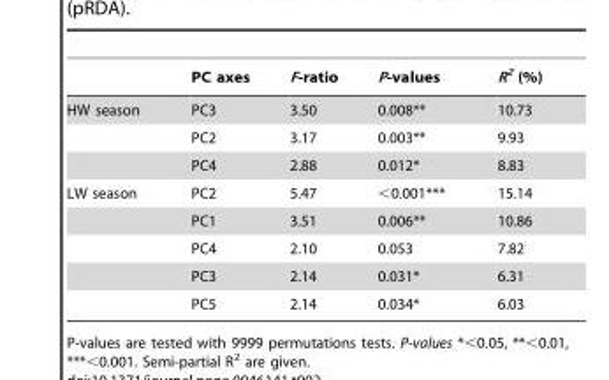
<table><thead><tr><td></td><td>PC axes</td><td>F-ratio</td><td>P-values</td><td>R<sup>2</sup> (%)</td></tr></thead><tbody><tr><td rowspan="3">HW season</td><td>PC3</td><td>3.50</td><td>0.008**</td><td>10.73</td></tr><tr><td>PC2</td><td>3.17</td><td>0.003**</td><td>9.93</td></tr><tr><td>PC4</td><td>2.88</td><td>0.012*</td><td>8.83</td></tr><tr><td rowspan="5">LW season</td><td>PC2</td><td>5.47</td><td>&lt;0.001***</td><td>15.14</td></tr><tr><td>PC1</td><td>3.51</td><td>0.006**</td><td>10.86</td></tr><tr><td>PC4</td><td>2.10</td><td>0.053</td><td>7.82</td></tr><tr><td>PC3</td><td>2.14</td><td>0.031*</td><td>6.31</td></tr><tr><td>PC5</td><td>2.14</td><td>0.034*</td><td>6.03</td></tr></tbody></table>